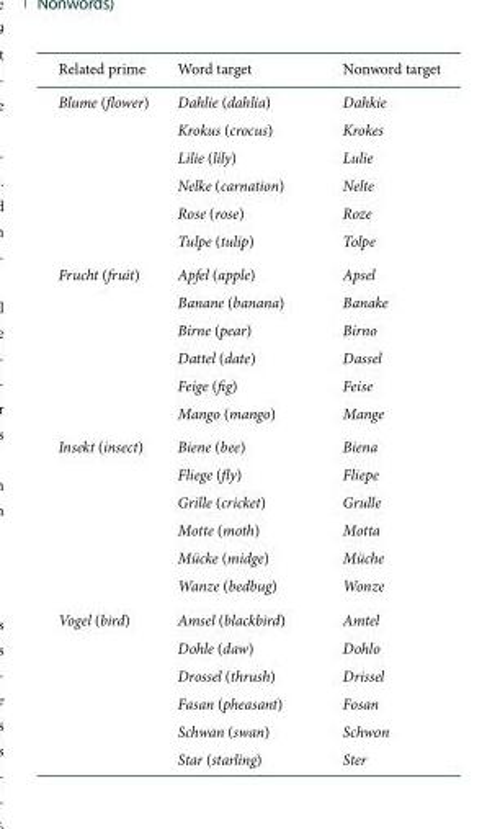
<table><thead><tr><td>Related prime</td><td>Word target</td><td>Nonword target</td></tr></thead><tbody><tr><td rowspan="6">Blume (flower)</td><td>Dahlie (dahlia)</td><td>Dahkie</td></tr><tr><td>Krokus (crocus)</td><td>Krokes</td></tr><tr><td>Lilie (lily)</td><td>Lulie</td></tr><tr><td>Nelke (carnation)</td><td>Nelte</td></tr><tr><td>Rose (rose)</td><td>Roze</td></tr><tr><td>Tulpe (tulip)</td><td>Tolpe</td></tr><tr><td rowspan="6">Frucht (fruit)</td><td>Apfel (apple)</td><td>Apsel</td></tr><tr><td>Banane (banana)</td><td>Banake</td></tr><tr><td>Birne (pear)</td><td>Birno</td></tr><tr><td>Dattel (date)</td><td>Dassel</td></tr><tr><td>Feige (fig)</td><td>Feise</td></tr><tr><td>Mango (mango)</td><td>Mange</td></tr><tr><td rowspan="6">Insekt (insect)</td><td>Biene (bee)</td><td>Biena</td></tr><tr><td>Fliege (fly)</td><td>Fliepe</td></tr><tr><td>Grille (cricket)</td><td>Grulle</td></tr><tr><td>Motte (moth)</td><td>Motta</td></tr><tr><td>Mücke (midge)</td><td>Müche</td></tr><tr><td>Wanze (bedbug)</td><td>Wonze</td></tr><tr><td rowspan="6">Vogel (bird)</td><td>Amsel (blackbird)</td><td>Amtel</td></tr><tr><td>Dohle (daw)</td><td>Dohlo</td></tr><tr><td>Drossel (thrush)</td><td>Drissel</td></tr><tr><td>Fasan (pheasant)</td><td>Fosan</td></tr><tr><td>Schwan (swan)</td><td>Schwon</td></tr><tr><td>Star (starling)</td><td>Ster</td></tr></tbody></table>